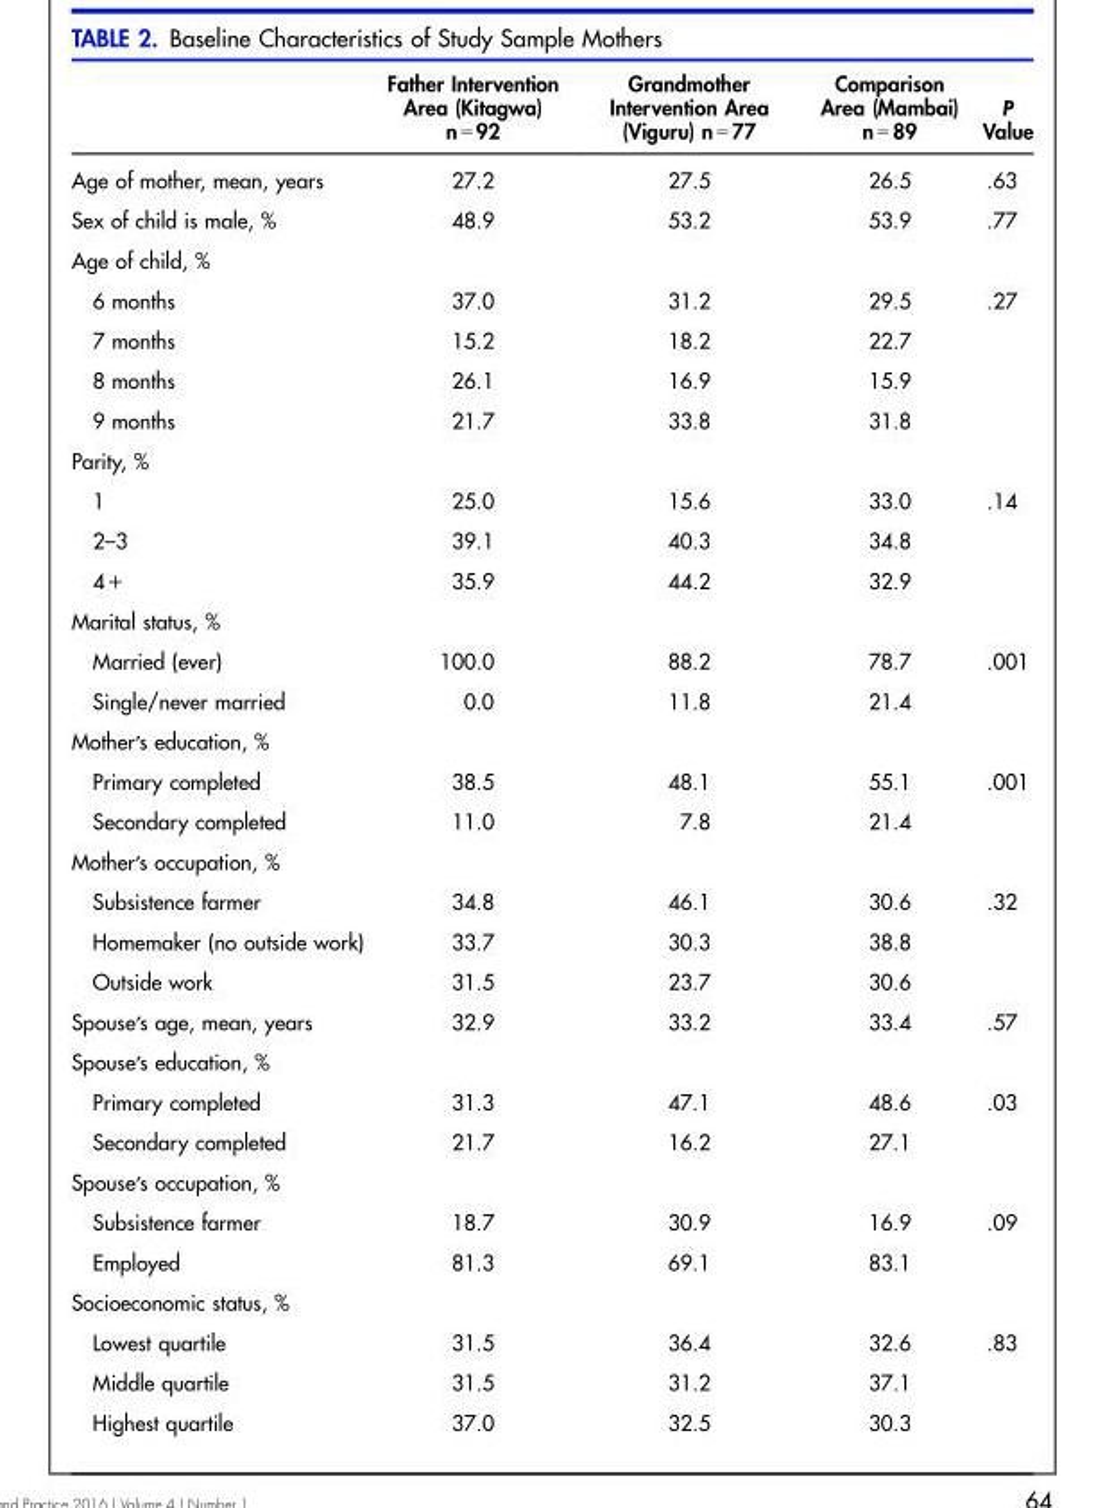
<table><thead><tr><td></td><td>Father Intervention Area (Kitagwa) n = 92</td><td>Grandmother Intervention Area (Viguru) n = 77</td><td>Comparison Area (Mambai) n = 89</td><td>P Value</td></tr></thead><tbody><tr><td>Age of mother, mean, years</td><td>27.2</td><td>27.5</td><td>26.5</td><td>.63</td></tr><tr><td>Sex of child is male, %</td><td>48.9</td><td>53.2</td><td>53.9</td><td>.77</td></tr><tr><td colspan="5">Age of child, %</td></tr><tr><td>6 months</td><td>37.0</td><td>31.2</td><td>29.5</td><td rowspan="4">.27</td></tr><tr><td>7 months</td><td>15.2</td><td>18.2</td><td>22.7</td></tr><tr><td>8 months</td><td>26.1</td><td>16.9</td><td>15.9</td></tr><tr><td>9 months</td><td>21.7</td><td>33.8</td><td>31.8</td></tr><tr><td colspan="5">Parity, %</td></tr><tr><td>1</td><td>25.0</td><td>15.6</td><td>33.0</td><td rowspan="3">.14</td></tr><tr><td>2–3</td><td>39.1</td><td>40.3</td><td>34.8</td></tr><tr><td>4+</td><td>35.9</td><td>44.2</td><td>32.9</td></tr><tr><td colspan="5">Marital status, %</td></tr><tr><td>Married (ever)</td><td>100.0</td><td>88.2</td><td>78.7</td><td rowspan="2">.001</td></tr><tr><td>Single/never married</td><td>0.0</td><td>11.8</td><td>21.4</td></tr><tr><td colspan="5">Mother’s education, %</td></tr><tr><td>Primary completed</td><td>38.5</td><td>48.1</td><td>55.1</td><td rowspan="2">.001</td></tr><tr><td>Secondary completed</td><td>11.0</td><td>7.8</td><td>21.4</td></tr><tr><td colspan="5">Mother’s occupation, %</td></tr><tr><td>Subsistence farmer</td><td>34.8</td><td>46.1</td><td>30.6</td><td rowspan="3">.32</td></tr><tr><td>Homemaker (no outside work)</td><td>33.7</td><td>30.3</td><td>38.8</td></tr><tr><td>Outside work</td><td>31.5</td><td>23.7</td><td>30.6</td></tr><tr><td>Spouse’s age, mean, years</td><td>32.9</td><td>33.2</td><td>33.4</td><td>.57</td></tr><tr><td colspan="5">Spouse’s education, %</td></tr><tr><td>Primary completed</td><td>31.3</td><td>47.1</td><td>48.6</td><td rowspan="2">.03</td></tr><tr><td>Secondary completed</td><td>21.7</td><td>16.2</td><td>27.1</td></tr><tr><td colspan="5">Spouse’s occupation, %</td></tr><tr><td>Subsistence farmer</td><td>18.7</td><td>30.9</td><td>16.9</td><td rowspan="2">.09</td></tr><tr><td>Employed</td><td>81.3</td><td>69.1</td><td>83.1</td></tr><tr><td colspan="5">Socioeconomic status, %</td></tr><tr><td>Lowest quartile</td><td>31.5</td><td>36.4</td><td>32.6</td><td rowspan="3">.83</td></tr><tr><td>Middle quartile</td><td>31.5</td><td>31.2</td><td>37.1</td></tr><tr><td>Highest quartile</td><td>37.0</td><td>32.5</td><td>30.3</td></tr></tbody></table>